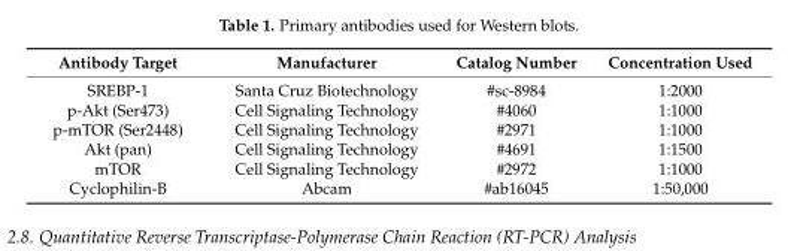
<table><thead><tr><td>Antibody Target</td><td>Manufacturer</td><td>Catalog Number</td><td>Concentration Used</td></tr></thead><tbody><tr><td>SREBP-1</td><td>Santa Cruz Biotechnology</td><td>#sc-8984</td><td>1:2000</td></tr><tr><td>p-Akt (Ser473)</td><td>Cell Signaling Technology</td><td>#4060</td><td>1:1000</td></tr><tr><td>p-mTOR (Ser2448)</td><td>Cell Signaling Technology</td><td>#2971</td><td>1:1000</td></tr><tr><td>Akt (pan)</td><td>Cell Signaling Technology</td><td>#4691</td><td>1:1500</td></tr><tr><td>mTOR</td><td>Cell Signaling Technology</td><td>#2972</td><td>1:1000</td></tr><tr><td>Cyclophilin-B</td><td>Abcam</td><td>#ab16045</td><td>1:50,000</td></tr></tbody></table>